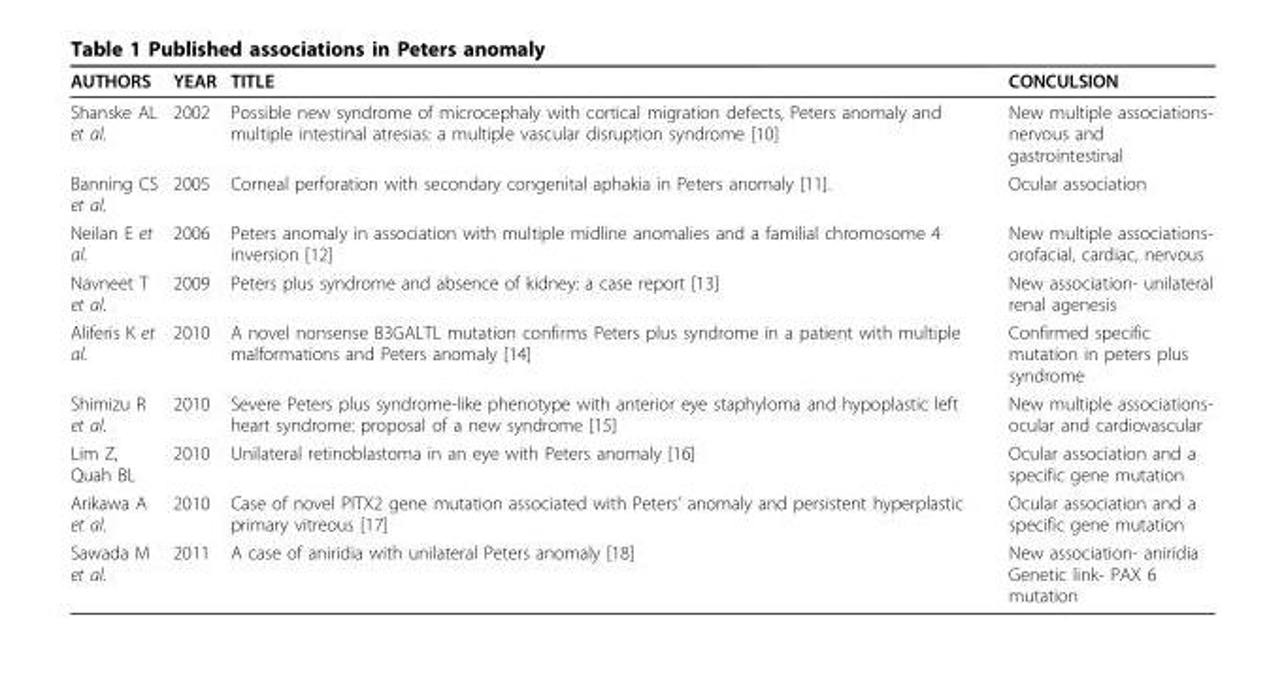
<table><thead><tr><td>AUTHORS</td><td>YEAR</td><td>TITLE</td><td>CONCULSION</td></tr></thead><tbody><tr><td>Shanske AL et al.</td><td>2002</td><td>Possible new syndrome of microcephaly with cortical migration defects, Peters anomaly and multiple intestinal atresias: a multiple vascular disruption syndrome [10]</td><td>New multiple associations- nervous and gastrointestinal</td></tr><tr><td>Banning CS et al.</td><td>2005</td><td>Corneal perforation with secondary congenital aphakia in Peters anomaly [11].</td><td>Ocular association</td></tr><tr><td>Neilan E et al.</td><td>2006</td><td>Peters anomaly in association with multiple midline anomalies and a familial chromosome 4 inversion [12]</td><td>New multiple associations- orofacial, cardiac, nervous</td></tr><tr><td>Navneet T et al.</td><td>2009</td><td>Peters plus syndrome and absence of kidney: a case report [13]</td><td>New association- unilateral renal agenesis</td></tr><tr><td>Aliferis K et al.</td><td>2010</td><td>A novel nonsense B3GALTL mutation confirms Peters plus syndrome in a patient with multiple malformations and Peters anomaly [14]</td><td>Confirmed specific mutation in peters plus syndrome</td></tr><tr><td>Shimizu R et al.</td><td>2010</td><td>Severe Peters plus syndrome-like phenotype with anterior eye staphyloma and hypoplastic left heart syndrome: proposal of a new syndrome [15]</td><td>New multiple associations- ocular and cardiovascular</td></tr><tr><td>Lim Z, Quah BL</td><td>2010</td><td>Unilateral retinoblastoma in an eye with Peters anomaly [16]</td><td>Ocular association and a specific gene mutation</td></tr><tr><td>Arikawa A et al.</td><td>2010</td><td>Case of novel PITX2 gene mutation associated with Peters’ anomaly and persistent hyperplastic primary vitreous [17]</td><td>Ocular association and a specific gene mutation</td></tr><tr><td>Sawada M et al.</td><td>2011</td><td>A case of aniridia with unilateral Peters anomaly [18]</td><td>New association- aniridia Genetic link- PAX 6 mutation</td></tr></tbody></table>